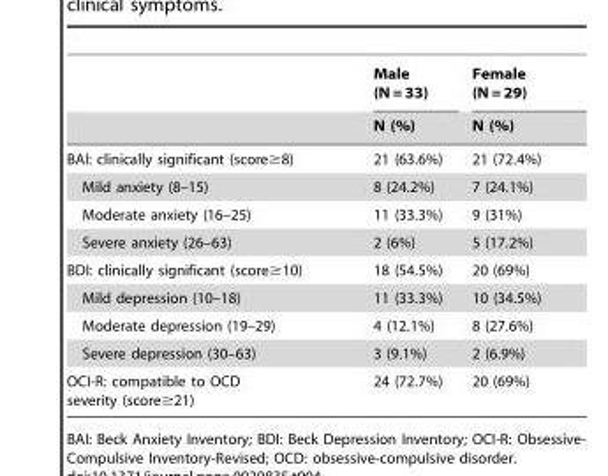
<table><thead><tr><td rowspan="2"></td><td rowspan="2">Male (N = 33) N (%)</td><td rowspan="2">Female (N = 29) N (%)</td></tr><tr></tr></thead><tbody><tr><td>BAI: clinically significant (score≥8)</td><td>21 (63.6%)</td><td>21 (72.4%)</td></tr><tr><td>Mild anxiety (8–15)</td><td>8 (24.2%)</td><td>7 (24.1%)</td></tr><tr><td>Moderate anxiety (16–25)</td><td>11 (33.3%)</td><td>9 (31%)</td></tr><tr><td>Severe anxiety (26–63)</td><td>2 (6%)</td><td>5 (17.2%)</td></tr><tr><td>BDI: clinically significant (score≥10)</td><td>18 (54.5%)</td><td>20 (69%)</td></tr><tr><td>Mild depression (10–18)</td><td>11 (33.3%)</td><td>10 (34.5%)</td></tr><tr><td>Moderate depression (19–29)</td><td>4 (12.1%)</td><td>8 (27.6%)</td></tr><tr><td>Severe depression (30–63)</td><td>3 (9.1%)</td><td>2 (6.9%)</td></tr><tr><td>OCI-R: compatible to OCD severity (score≥21)</td><td>24 (72.7%)</td><td>20 (69%)</td></tr></tbody></table>